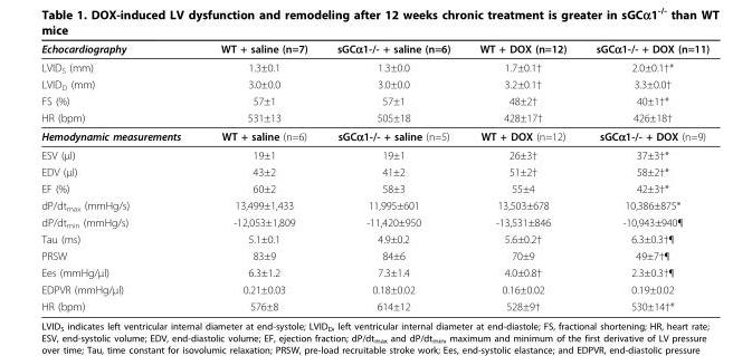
<table><thead><tr><td>Echocardiography</td><td>WT + saline (n=7)</td><td>sGCα1-/- + saline (n=6)</td><td>WT + DOX (n=12)</td><td>sGCα1-/- + DOX (n=11)</td></tr></thead><tbody><tr><td>LVID<sub>S</sub> (mm)</td><td>1.3±0.1</td><td>1.3±0.0</td><td>1.7±0.1†</td><td>2.0±0.1†*</td></tr><tr><td>LVID<sub>D</sub> (mm)</td><td>3.0±0.0</td><td>3.0±0.0</td><td>3.2±0.1†</td><td>3.3±0.0†</td></tr><tr><td>FS (%)</td><td>57±1</td><td>57±1</td><td>48±2†</td><td>40±1†*</td></tr><tr><td>HR (bpm)</td><td>531±13</td><td>505±18</td><td>428±17†</td><td>426±18†</td></tr><tr><td>Hemodynamic measurements</td><td>WT + saline (n=6)</td><td>sGCα1-/- + saline (n=5)</td><td>WT + DOX (n=12)</td><td>sGCα1-/- + DOX (n=9)</td></tr><tr><td>ESV (μl)</td><td>19±1</td><td>19±1</td><td>26±3†</td><td>37±3†*</td></tr><tr><td>EDV (μl)</td><td>43±2</td><td>41±2</td><td>51±2†</td><td>58±2†*</td></tr><tr><td>EF (%)</td><td>60±2</td><td>58±3</td><td>55±4</td><td>42±3†*</td></tr><tr><td>dP/dt<sub>max</sub> (mmHg/s)</td><td>13,499±1,433</td><td>11,995±601</td><td>13,503±678</td><td>10,386±875*</td></tr><tr><td>dP/dt<sub>min</sub> (mmHg/s)</td><td>-12,053±1,809</td><td>-11,420±950</td><td>-13,531±846</td><td>-10,943±940¶</td></tr><tr><td>Tau (ms)</td><td>5.1±0.1</td><td>4.9±0.2</td><td>5.6±0.2†</td><td>6.3±0.3†¶</td></tr><tr><td>PRSW</td><td>83±9</td><td>84±6</td><td>70±9</td><td>49±7†¶</td></tr><tr><td>Ees (mmHg/μl)</td><td>6.3±1.2</td><td>7.3±1.4</td><td>4.0±0.8†</td><td>2.3±0.3†¶</td></tr><tr><td>EDPVR (mmHg/μl)</td><td>0.21±0.03</td><td>0.18±0.02</td><td>0.16±0.02</td><td>0.19±0.02</td></tr><tr><td>HR (bpm)</td><td>576±8</td><td>614±12</td><td>528±9†</td><td>530±14†*</td></tr></tbody></table>